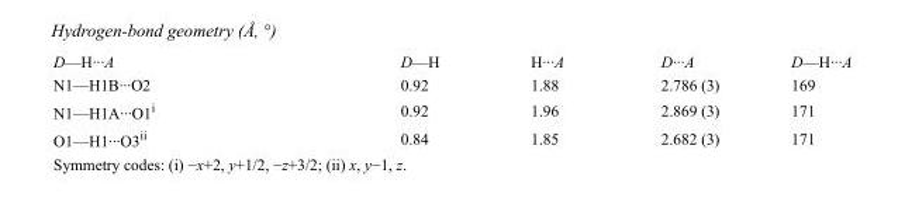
<table><tbody><tr><td>D—H···A</td><td>D—H</td><td>H···A</td><td>D···A</td><td>D—H···A</td></tr><tr><td>N1—H1B···O2</td><td>0.92</td><td>1.88</td><td>2.786 (3)</td><td>169</td></tr><tr><td>N1—H1A···O1<sup>i</sup></td><td>0.92</td><td>1.96</td><td>2.869 (3)</td><td>171</td></tr><tr><td>O1—H1···O3<sup>ii</sup></td><td>0.84</td><td>1.85</td><td>2.682 (3)</td><td>171</td></tr></tbody></table>